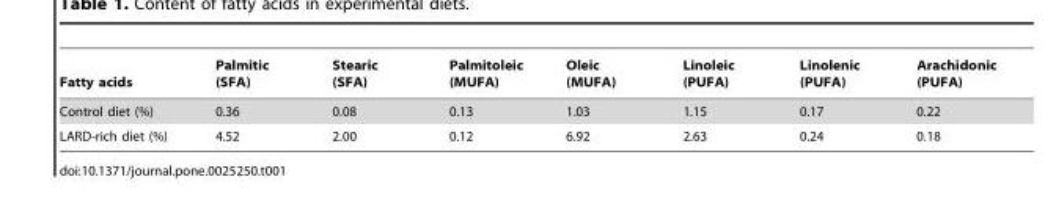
<table><thead><tr><td>Fatty acids</td><td>Palmitic (SFA)</td><td>Stearic (SFA)</td><td>Palmitoleic (MUFA)</td><td>Oleic (MUFA)</td><td>Linoleic (PUFA)</td><td>Linolenic (PUFA)</td><td>Arachidonic (PUFA)</td></tr></thead><tbody><tr><td>Control diet (%)</td><td>0.36</td><td>0.08</td><td>0.13</td><td>1.03</td><td>1.15</td><td>0.17</td><td>0.22</td></tr><tr><td>LARD-rich diet (%)</td><td>4.52</td><td>2.00</td><td>0.12</td><td>6.92</td><td>2.63</td><td>0.24</td><td>0.18</td></tr></tbody></table>